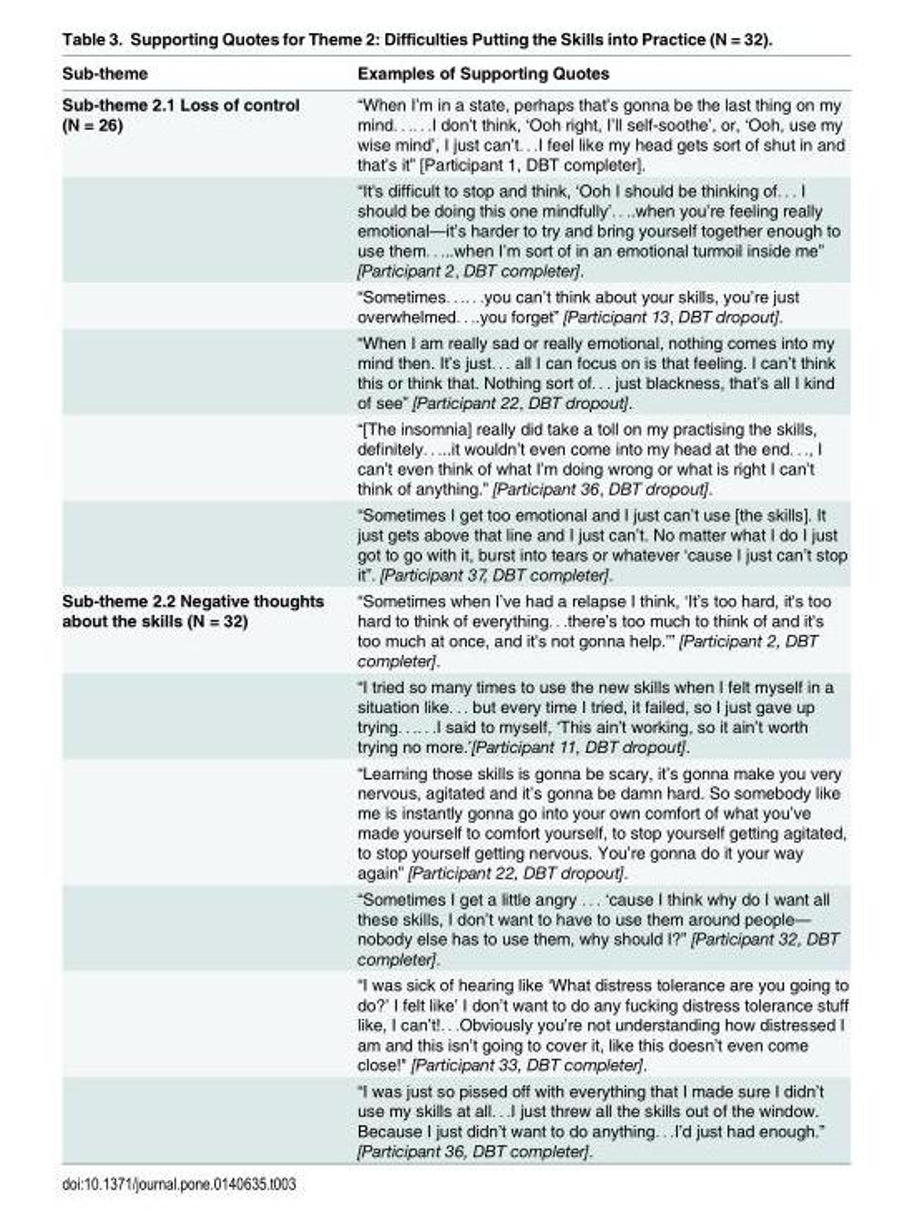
<table><thead><tr><td>Sub-theme</td><td>Examples of Supporting Quotes</td></tr></thead><tbody><tr><td rowspan="6">Sub-theme 2.1 Loss of control (N = 26)</td><td>“When I’m in a state, perhaps that’s gonna be the last thing on my mind. . .. . .I don’t think, ‘Ooh right, I’ll self-soothe’, or, ‘Ooh, use my wise mind’, I just can’t. . .I feel like my head gets sort of shut in and that’s it” [Participant 1, DBT completer].</td></tr><tr><td>“It&#x27;s difficult to stop and think, ‘Ooh I should be thinking of. . . I should be doing this one mindfully’. . ..when you’re feeling really emotional—it’s harder to try and bring yourself together enough to use them. . ...when I’m sort of in an emotional turmoil inside me” [Participant 2, DBT completer].</td></tr><tr><td>“Sometimes. . .. . .you can’t think about your skills, you’re just overwhelmed. . ..you forget” [Participant 13, DBT dropout].</td></tr><tr><td>“When I am really sad or really emotional, nothing comes into my mind then. It’s just. . . all I can focus on is that feeling. I can’t think this or think that. Nothing sort of. . . just blackness, that’s all I kind of see” [Participant 22, DBT dropout].</td></tr><tr><td>“[The insomnia] really did take a toll on my practising the skills, definitely. . ...it wouldn’t even come into my head at the end. . ., I can’t even think of what I’m doing wrong or what is right I can’t think of anything.” [Participant 36, DBT dropout].</td></tr><tr><td>“Sometimes I get too emotional and I just can’t use [the skills]. It just gets above that line and I just can’t. No matter what I do I just got to go with it, burst into tears or whatever ‘cause I just can’t stop it”. [Participant 37, DBT completer].</td></tr><tr><td rowspan="6">Sub-theme 2.2 Negative thoughts about the skills (N = 32)</td><td>“Sometimes when I’ve had a relapse I think, ‘It’s too hard, it&#x27;s too hard to think of everything. . .there’s too much to think of and it&#x27;s too much at once, and it&#x27;s not gonna help.’” [Participant 2, DBT completer].</td></tr><tr><td>“I tried so many times to use the new skills when I felt myself in a situation like. . . but every time I tried, it failed, so I just gave up trying. . .. . .I said to myself, ‘This ain’t working, so it ain’t worth trying no more.’[Participant 11, DBT dropout].</td></tr><tr><td>“Learning those skills is gonna be scary, it’s gonna make you very nervous, agitated and it’s gonna be damn hard. So somebody like me is instantly gonna go into your own comfort of what you’ve made yourself to comfort yourself, to stop yourself getting agitated, to stop yourself getting nervous. You’re gonna do it your way again” [Participant 22, DBT dropout].</td></tr><tr><td>“Sometimes I get a little angry . . . ‘cause I think why do I want all these skills, I don’t want to have to use them around people— nobody else has to use them, why should I?” [Participant 32, DBT completer].</td></tr><tr><td>“I was sick of hearing like ‘What distress tolerance are you going to do?’ I felt like’ I don’t want to do any fucking distress tolerance stuff like, I can’t!. . .Obviously you’re not understanding how distressed I am and this isn’t going to cover it, like this doesn’t even come close!&quot; [Participant 33, DBT completer].</td></tr><tr><td>“I was just so pissed off with everything that I made sure I didn’t use my skills at all. . .I just threw all the skills out of the window. Because I just didn’t want to do anything. . .I’d just had enough.” [Participant 36, DBT completer].</td></tr></tbody></table>